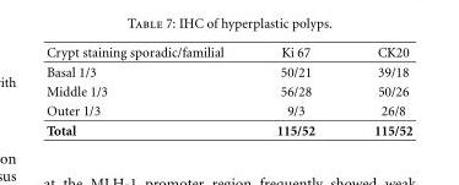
<table><thead><tr><td>Crypt staining sporadic/familial</td><td>Ki 67</td><td>CK20</td></tr></thead><tbody><tr><td>Basal 1/3</td><td>50/21</td><td>39/18</td></tr><tr><td>Middle 1/3</td><td>56/28</td><td>50/26</td></tr><tr><td>Outer 1/3</td><td>9/3</td><td>26/8</td></tr><tr><td>Total</td><td>115/52</td><td>115/52</td></tr></tbody></table>